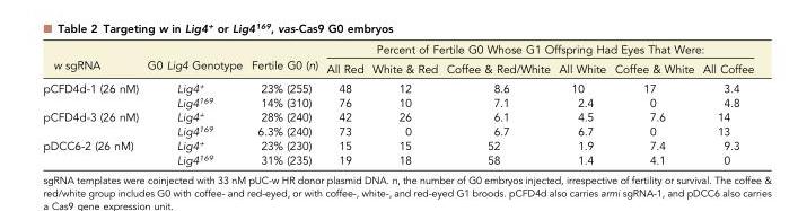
<table><thead><tr><td rowspan="2">w sgRNA</td><td rowspan="2">G0 Lig4 Genotype</td><td rowspan="2">Fertile G0 (n)</td><td colspan="6">Percent of Fertile G0 Whose G1 Offspring Had Eyes That Were:</td></tr><tr><td>All Red</td><td>White &amp; Red</td><td>Coffee &amp; Red/White</td><td>All White</td><td>Coffee &amp; White</td><td>All Coffee</td></tr></thead><tbody><tr><td rowspan="2">pCFD4d-1 (26 nM)</td><td>Lig4<sup>+</sup></td><td>23% (255)</td><td>48</td><td>12</td><td>8.6</td><td>10</td><td>17</td><td>3.4</td></tr><tr><td>Lig4<sup>169</sup></td><td>14% (310)</td><td>76</td><td>10</td><td>7.1</td><td>2.4</td><td>0</td><td>4.8</td></tr><tr><td rowspan="2">pCFD4d-3 (26 nM)</td><td>Lig4<sup>+</sup></td><td>28% (240)</td><td>42</td><td>26</td><td>6.1</td><td>4.5</td><td>7.6</td><td>14</td></tr><tr><td>Lig4<sup>169</sup></td><td>6.3% (240)</td><td>73</td><td>0</td><td>6.7</td><td>6.7</td><td>0</td><td>13</td></tr><tr><td rowspan="2">pDCC6-2 (26 nM)</td><td>Lig4<sup>+</sup></td><td>23% (230)</td><td>15</td><td>15</td><td>52</td><td>1.9</td><td>7.4</td><td>9.3</td></tr><tr><td>Lig4<sup>169</sup></td><td>31% (235)</td><td>19</td><td>18</td><td>58</td><td>1.4</td><td>4.1</td><td>0</td></tr></tbody></table>